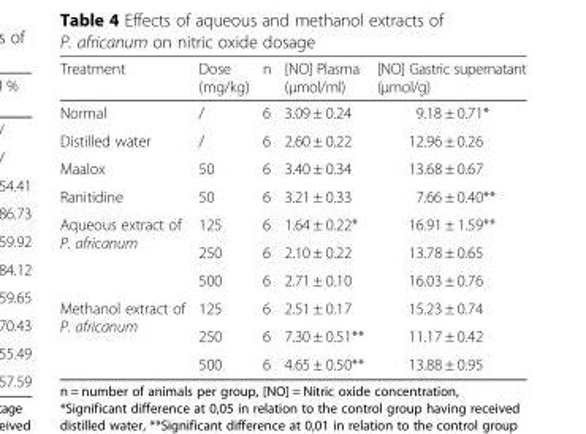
<table><thead><tr><td>Treatment</td><td>Dose (mg/kg)</td><td>n</td><td>[NO] Plasma (μmol/ml)</td><td>[NO] Gastric supernatant (μmol/g)</td></tr></thead><tbody><tr><td>Normal</td><td>/</td><td>6</td><td>3.09 ± 0.24</td><td>9.18 ± 0.71*</td></tr><tr><td>Distilled water</td><td>/</td><td>6</td><td>2.60 ± 0.22</td><td>12.96 ± 0.26</td></tr><tr><td>Maalox</td><td>50</td><td>6</td><td>3.40 ± 0.34</td><td>13.68 ± 0.67</td></tr><tr><td>Ranitidine</td><td>50</td><td>6</td><td>3.21 ± 0.33</td><td>7.66 ± 0.40**</td></tr><tr><td rowspan="3">Aqueous extract of P. africanum</td><td>125</td><td>6</td><td>1.64 ± 0.22*</td><td>16.91 ± 1.59**</td></tr><tr><td>250</td><td>6</td><td>2.10 ± 0.22</td><td>13.78 ± 0.65</td></tr><tr><td>500</td><td>6</td><td>2.71 ± 0.10</td><td>16.03 ± 0.76</td></tr><tr><td rowspan="3">Methanol extract of P. africanum</td><td>125</td><td>6</td><td>2.51 ± 0.17</td><td>15.23 ± 0.74</td></tr><tr><td>250</td><td>6</td><td>7.30 ± 0.51**</td><td>11.17 ± 0.42</td></tr><tr><td>500</td><td>6</td><td>4.65 ± 0.50**</td><td>13.88 ± 0.95</td></tr></tbody></table>